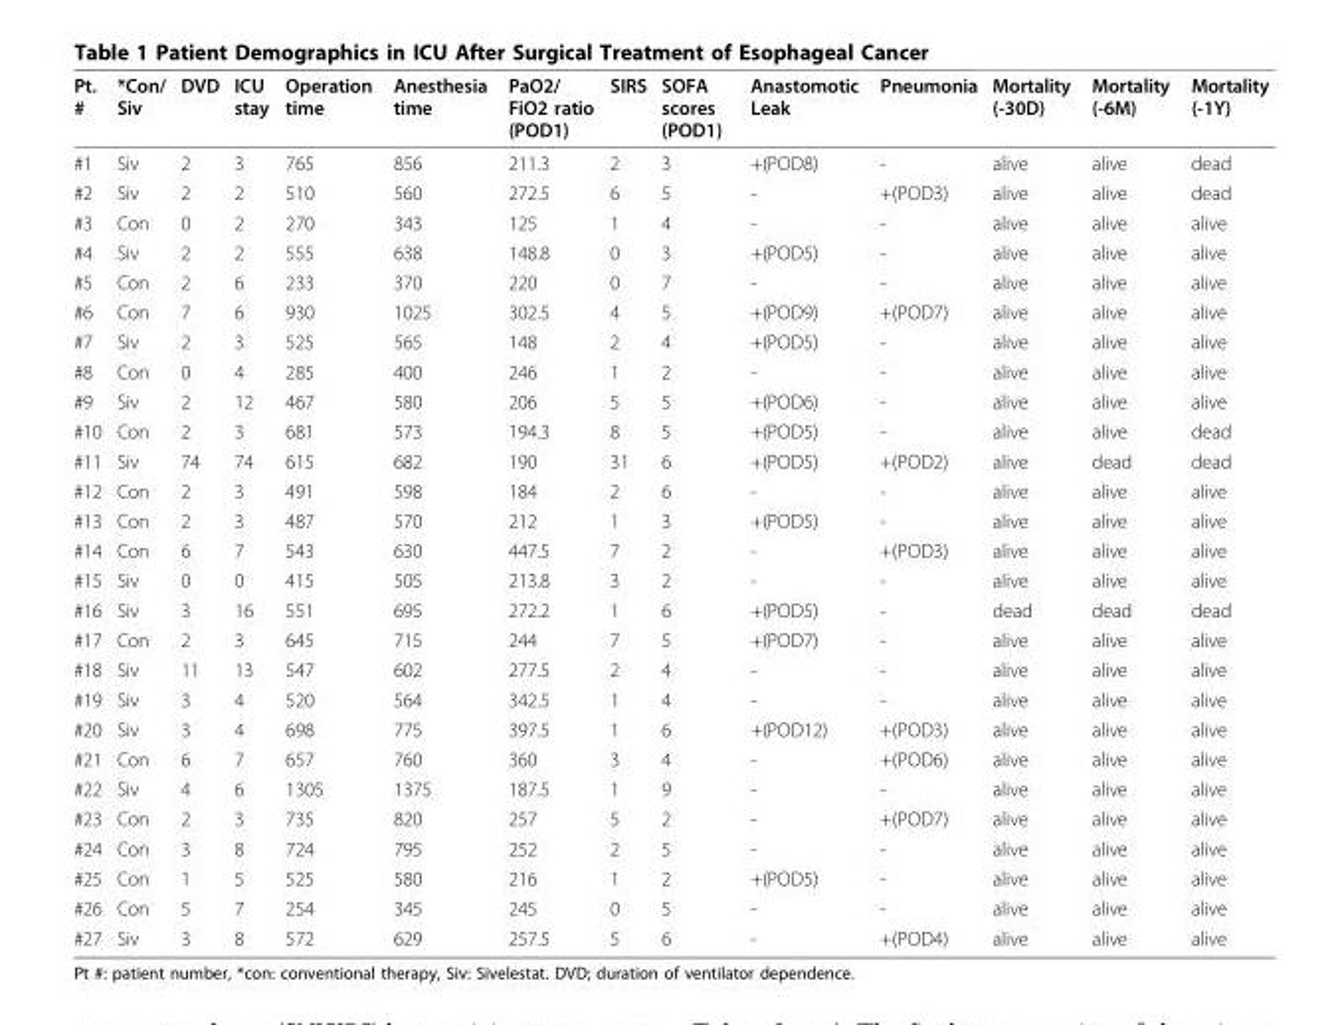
<table><thead><tr><td>Pt. #</td><td>*Con/ Siv</td><td>DVD</td><td>ICU stay</td><td>Operation time</td><td>Anesthesia time</td><td>PaO2/ FiO2 ratio (POD1)</td><td>SIRS</td><td>SOFA scores (POD1)</td><td>Anastomotic Leak</td><td>Pneumonia</td><td>Mortality (-30D)</td><td>Mortality (-6M)</td><td>Mortality (-1Y)</td></tr></thead><tbody><tr><td>#1</td><td>Siv</td><td>2</td><td>3</td><td>765</td><td>856</td><td>211.3</td><td>2</td><td>3</td><td>+(POD8)</td><td>-</td><td>alive</td><td>alive</td><td>dead</td></tr><tr><td>#2</td><td>Siv</td><td>2</td><td>2</td><td>510</td><td>560</td><td>272.5</td><td>6</td><td>5</td><td>-</td><td>+(POD3)</td><td>alive</td><td>alive</td><td>dead</td></tr><tr><td>#3</td><td>Con</td><td>0</td><td>2</td><td>270</td><td>343</td><td>125</td><td>1</td><td>4</td><td>-</td><td>-</td><td>alive</td><td>alive</td><td>alive</td></tr><tr><td>#4</td><td>Siv</td><td>2</td><td>2</td><td>555</td><td>638</td><td>148.8</td><td>0</td><td>3</td><td>+(POD5)</td><td>-</td><td>alive</td><td>alive</td><td>alive</td></tr><tr><td>#5</td><td>Con</td><td>2</td><td>6</td><td>233</td><td>370</td><td>220</td><td>0</td><td>7</td><td>-</td><td>-</td><td>alive</td><td>alive</td><td>alive</td></tr><tr><td>#6</td><td>Con</td><td>7</td><td>6</td><td>930</td><td>1025</td><td>302.5</td><td>4</td><td>5</td><td>+(POD9)</td><td>+(POD7)</td><td>alive</td><td>alive</td><td>alive</td></tr><tr><td>#7</td><td>Siv</td><td>2</td><td>3</td><td>525</td><td>565</td><td>148</td><td>2</td><td>4</td><td>+(POD5)</td><td>-</td><td>alive</td><td>alive</td><td>alive</td></tr><tr><td>#8</td><td>Con</td><td>0</td><td>4</td><td>285</td><td>400</td><td>246</td><td>1</td><td>2</td><td>-</td><td>-</td><td>alive</td><td>alive</td><td>alive</td></tr><tr><td>#9</td><td>Siv</td><td>2</td><td>12</td><td>467</td><td>580</td><td>206</td><td>5</td><td>5</td><td>+(POD6)</td><td>-</td><td>alive</td><td>alive</td><td>alive</td></tr><tr><td>#10</td><td>Con</td><td>2</td><td>3</td><td>681</td><td>573</td><td>194.3</td><td>8</td><td>5</td><td>+(POD5)</td><td>-</td><td>alive</td><td>alive</td><td>dead</td></tr><tr><td>#11</td><td>Siv</td><td>74</td><td>74</td><td>615</td><td>682</td><td>190</td><td>31</td><td>6</td><td>+(POD5)</td><td>+(POD2)</td><td>alive</td><td>dead</td><td>dead</td></tr><tr><td>#12</td><td>Con</td><td>2</td><td>3</td><td>491</td><td>598</td><td>184</td><td>2</td><td>6</td><td>-</td><td>-</td><td>alive</td><td>alive</td><td>alive</td></tr><tr><td>#13</td><td>Con</td><td>2</td><td>3</td><td>487</td><td>570</td><td>212</td><td>1</td><td>3</td><td>+(POD5)</td><td>-</td><td>alive</td><td>alive</td><td>alive</td></tr><tr><td>#14</td><td>Con</td><td>6</td><td>7</td><td>543</td><td>630</td><td>447.5</td><td>7</td><td>2</td><td>-</td><td>+(POD3)</td><td>alive</td><td>alive</td><td>alive</td></tr><tr><td>#15</td><td>Siv</td><td>0</td><td>0</td><td>415</td><td>505</td><td>213.8</td><td>3</td><td>2</td><td>-</td><td>-</td><td>alive</td><td>alive</td><td>alive</td></tr><tr><td>#16</td><td>Siv</td><td>3</td><td>16</td><td>551</td><td>695</td><td>272.2</td><td>1</td><td>6</td><td>+(POD5)</td><td>-</td><td>dead</td><td>dead</td><td>dead</td></tr><tr><td>#17</td><td>Con</td><td>2</td><td>3</td><td>645</td><td>715</td><td>244</td><td>7</td><td>5</td><td>+(POD7)</td><td>-</td><td>alive</td><td>alive</td><td>alive</td></tr><tr><td>#18</td><td>Siv</td><td>11</td><td>13</td><td>547</td><td>602</td><td>277.5</td><td>2</td><td>4</td><td>-</td><td>-</td><td>alive</td><td>alive</td><td>alive</td></tr><tr><td>#19</td><td>Siv</td><td>3</td><td>4</td><td>520</td><td>564</td><td>342.5</td><td>1</td><td>4</td><td>-</td><td>-</td><td>alive</td><td>alive</td><td>alive</td></tr><tr><td>#20</td><td>Siv</td><td>3</td><td>4</td><td>698</td><td>775</td><td>397.5</td><td>1</td><td>6</td><td>+(POD12)</td><td>+(POD3)</td><td>alive</td><td>alive</td><td>alive</td></tr><tr><td>#21</td><td>Con</td><td>6</td><td>7</td><td>657</td><td>760</td><td>360</td><td>3</td><td>4</td><td>-</td><td>+(POD6)</td><td>alive</td><td>alive</td><td>alive</td></tr><tr><td>#22</td><td>Siv</td><td>4</td><td>6</td><td>1305</td><td>1375</td><td>187.5</td><td>1</td><td>9</td><td>-</td><td>-</td><td>alive</td><td>alive</td><td>alive</td></tr><tr><td>#23</td><td>Con</td><td>2</td><td>3</td><td>735</td><td>820</td><td>257</td><td>5</td><td>2</td><td>-</td><td>+(POD7)</td><td>alive</td><td>alive</td><td>alive</td></tr><tr><td>#24</td><td>Con</td><td>3</td><td>8</td><td>724</td><td>795</td><td>252</td><td>2</td><td>5</td><td>-</td><td>-</td><td>alive</td><td>alive</td><td>alive</td></tr><tr><td>#25</td><td>Con</td><td>1</td><td>5</td><td>525</td><td>580</td><td>216</td><td>1</td><td>2</td><td>+(POD5)</td><td>-</td><td>alive</td><td>alive</td><td>alive</td></tr><tr><td>#26</td><td>Con</td><td>5</td><td>7</td><td>254</td><td>345</td><td>245</td><td>0</td><td>5</td><td>-</td><td>-</td><td>alive</td><td>alive</td><td>alive</td></tr><tr><td>#27</td><td>Siv</td><td>3</td><td>8</td><td>572</td><td>629</td><td>257.5</td><td>5</td><td>6</td><td>-</td><td>+(POD4)</td><td>alive</td><td>alive</td><td>alive</td></tr></tbody></table>